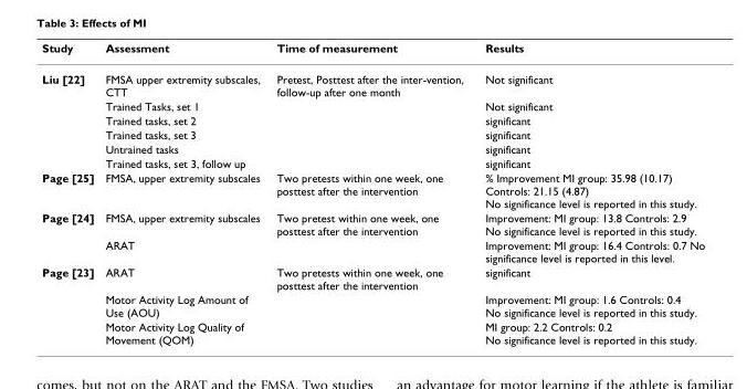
<table><thead><tr><td>Study</td><td>Assessment</td><td>Time of measurement</td><td>Results</td></tr></thead><tbody><tr><td rowspan="6">Liu [22]</td><td>FMSA upper extremity subscales, CTT</td><td>Pretest, Posttest after the inter-vention, follow-up after one month</td><td>Not significant</td></tr><tr><td>Trained Tasks, set 1</td><td></td><td>Not significant</td></tr><tr><td>Trained tasks, set 2</td><td></td><td>significant</td></tr><tr><td>Trained tasks, set 3</td><td></td><td>significant</td></tr><tr><td>Untrained tasks</td><td></td><td>significant</td></tr><tr><td>Trained tasks, set 3, follow up</td><td></td><td>significant</td></tr><tr><td>Page [25]</td><td>FMSA, upper extremity subscales</td><td>Two pretests within one week, one posttest after the intervention</td><td>% Improvement MI group: 35.98 (10.17) Controls: 21.15 (4.87) No significance level is reported in this study.</td></tr><tr><td rowspan="2">Page [24]</td><td>FMSA, upper extremity subscales</td><td>Two pretest within one week, one posttest after the intervention</td><td>Improvement: MI group: 13.8 Controls: 2.9 No significance level is reported in this study.</td></tr><tr><td>ARAT</td><td></td><td>Improvement: MI group: 16.4 Controls: 0.7 No significance level is reported in this level.</td></tr><tr><td rowspan="3">Page [23]</td><td>ARAT</td><td>Two pretests within one week, one posttest after the intervention</td><td>significant</td></tr><tr><td>Motor Activity Log Amount of Use (AOU)</td><td></td><td>Improvement: MI group: 1.6 Controls: 0.4 No significance level is reported in this study.</td></tr><tr><td>Motor Activity Log Quality of Movement (QOM)</td><td></td><td>MI group: 2.2 Controls: 0.2 No significance level is reported in this study.</td></tr></tbody></table>